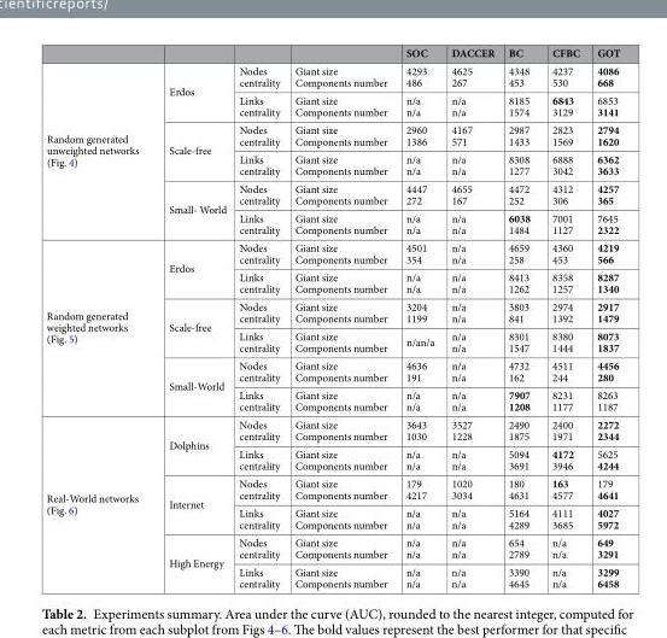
<table><thead><tr><td></td><td></td><td></td><td></td><td>SOC</td><td>DACCER</td><td>BC</td><td>CFBC</td><td>GOT</td></tr></thead><tbody><tr><td rowspan="6">Random generated unweighted networks (Fig. 4)</td><td rowspan="2">Erdos</td><td>Nodes centrality</td><td>Giant size Components number</td><td>4293 486</td><td>4625 267</td><td>4348 453</td><td>4237 530</td><td>4086 668</td></tr><tr><td>Links centrality</td><td>Giant size Components number</td><td>n/a n/a</td><td>n/a n/a</td><td>8185 1574</td><td>6843 3129</td><td>6853 3141</td></tr><tr><td rowspan="2">Scale-free</td><td>Nodes centrality</td><td>Giant size Components number</td><td>2960 1386</td><td>4167 571</td><td>2987 1433</td><td>2823 1569</td><td>2794 1620</td></tr><tr><td>Links centrality</td><td>Giant size Components number</td><td>n/a n/a</td><td>n/a n/a</td><td>8308 1277</td><td>6888 3042</td><td>6362 3633</td></tr><tr><td rowspan="2">Small- World</td><td>Nodes centrality</td><td>Giant size Components number</td><td>4447 272</td><td>4655 167</td><td>4472 252</td><td>4312 306</td><td>4257 365</td></tr><tr><td>Links centrality</td><td>Giant size Components number</td><td>n/a n/a</td><td>n/a n/a</td><td>6038 1484</td><td>7001 1127</td><td>7645 2322</td></tr><tr><td rowspan="6">Random generated weighted networks (Fig. 5)</td><td rowspan="2">Erdos</td><td>Nodes centrality</td><td>Giant size Components number</td><td>4501 354</td><td>n/a n/a</td><td>4659 258</td><td>4360 453</td><td>4219 566</td></tr><tr><td>Links centrality</td><td>Giant size Components number</td><td>n/a n/a</td><td>n/a n/a</td><td>8413 1262</td><td>8358 1257</td><td>8287 1340</td></tr><tr><td rowspan="2">Scale-free</td><td>Nodes centrality</td><td>Giant size Components number</td><td>3204 1199</td><td>n/a n/a</td><td>3803 841</td><td>2974 1392</td><td>2917 1479</td></tr><tr><td>Links centrality</td><td>Giant size Components number</td><td>n/an/a</td><td>n/a n/a</td><td>8301 1547</td><td>8380 1444</td><td>8073 1837</td></tr><tr><td rowspan="2">Small-World</td><td>Nodes centrality</td><td>Giant size Components number</td><td>4636 191</td><td>n/a n/a</td><td>4732 162</td><td>4511 244</td><td>4456 280</td></tr><tr><td>Links centrality</td><td>Giant size Components number</td><td>n/a n/a</td><td>n/a n/a</td><td>7907 1208</td><td>8231 1177</td><td>8263 1187</td></tr><tr><td rowspan="6">Real-World networks (Fig. 6)</td><td rowspan="2">Dolphins</td><td>Nodes centrality</td><td>Giant size Components number</td><td>3643 1030</td><td>3527 1228</td><td>2490 1875</td><td>2400 1971</td><td>2272 2344</td></tr><tr><td>Links centrality</td><td>Giant size Components number</td><td>n/a n/a</td><td>n/a n/a</td><td>5094 3691</td><td>4172 3946</td><td>5625 4244</td></tr><tr><td rowspan="2">Internet</td><td>Nodes centrality</td><td>Giant size Components number</td><td>179 4217</td><td>1020 3034</td><td>180 4631</td><td>163 4577</td><td>179 4641</td></tr><tr><td>Links centrality</td><td>Giant size Components number</td><td>n/a n/a</td><td>n/a n/a</td><td>5164 4289</td><td>4111 3685</td><td>4027 5972</td></tr><tr><td rowspan="2">High Energy</td><td>Nodes centrality</td><td>Giant size Components number</td><td>n/a n/a</td><td>n/a n/a</td><td>654 2789</td><td>n/a n/a</td><td>649 3291</td></tr><tr><td>Links centrality</td><td>Giant size Components number</td><td>n/a n/a</td><td>n/a n/a</td><td>3390 4645</td><td>n/a n/a</td><td>3299 6458</td></tr></tbody></table>